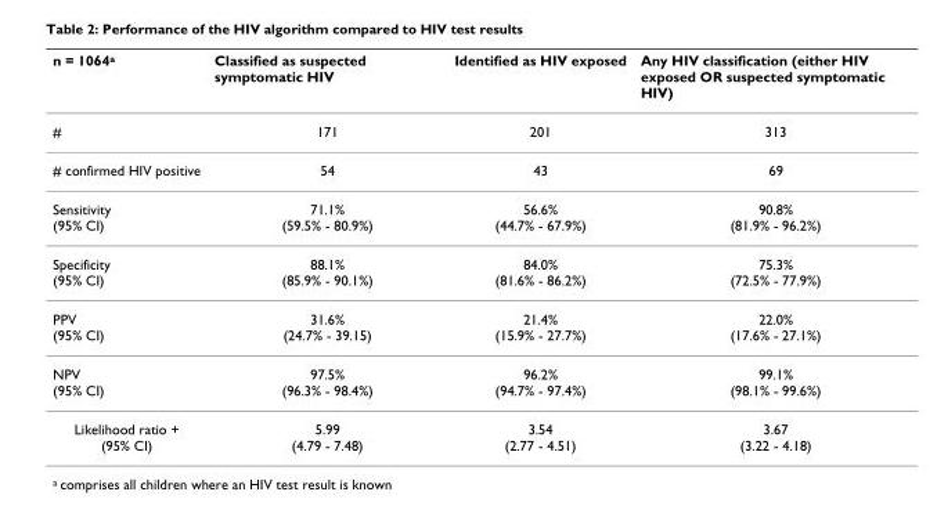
<table><thead><tr><td>n = 1064<sup>a</sup></td><td>Classified as suspected symptomatic HIV</td><td>Identified as HIV exposed</td><td>Any HIV classification (either HIV exposed OR suspected symptomatic HIV)</td></tr></thead><tbody><tr><td>#</td><td>171</td><td>201</td><td>313</td></tr><tr><td># confirmed HIV positive</td><td>54</td><td>43</td><td>69</td></tr><tr><td>Sensitivity (95% CI)</td><td>71.1% (59.5% - 80.9%)</td><td>56.6% (44.7% - 67.9%)</td><td>90.8% (81.9% - 96.2%)</td></tr><tr><td>Specificity (95% CI)</td><td>88.1% (85.9% - 90.1%)</td><td>84.0% (81.6% - 86.2%)</td><td>75.3% (72.5% - 77.9%)</td></tr><tr><td>PPV (95% CI)</td><td>31.6% (24.7% - 39.15)</td><td>21.4% (15.9% - 27.7%)</td><td>22.0% (17.6% - 27.1%)</td></tr><tr><td>NPV (95% CI)</td><td>97.5% (96.3% - 98.4%)</td><td>96.2% (94.7% - 97.4%)</td><td>99.1% (98.1% - 99.6%)</td></tr><tr><td>Likelihood ratio + (95% CI)</td><td>5.99 (4.79 - 7.48)</td><td>3.54 (2.77 - 4.51)</td><td>3.67 (3.22 - 4.18)</td></tr></tbody></table>